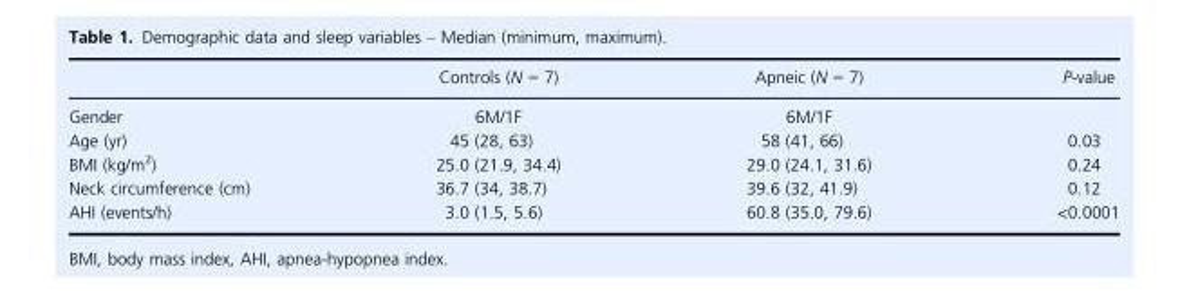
<table><thead><tr><td></td><td>Controls (N = 7)</td><td>Apneic (N = 7)</td><td>P-value</td></tr></thead><tbody><tr><td>Gender</td><td>6M/1F</td><td>6M/1F</td><td></td></tr><tr><td>Age (yr)</td><td>45 (28, 63)</td><td>58 (41, 66)</td><td>0.03</td></tr><tr><td>BMI (kg/m<sup>2</sup>)</td><td>25.0 (21.9, 34.4)</td><td>29.0 (24.1, 31.6)</td><td>0.24</td></tr><tr><td>Neck circumference (cm)</td><td>36.7 (34, 38.7)</td><td>39.6 (32, 41.9)</td><td>0.12</td></tr><tr><td>AHI (events/h)</td><td>3.0 (1.5, 5.6)</td><td>60.8 (35.0, 79.6)</td><td>&lt;0.0001</td></tr></tbody></table>